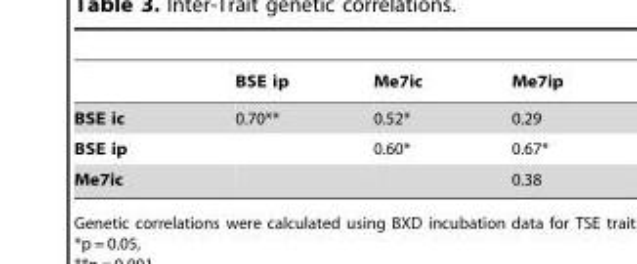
<table><thead><tr><td></td><td>BSE ip</td><td>Me7ic</td><td>Me7ip</td></tr></thead><tbody><tr><td>BSE ic</td><td>0.70**</td><td>0.52*</td><td>0.29</td></tr><tr><td>BSE ip</td><td></td><td>0.60*</td><td>0.67*</td></tr><tr><td>Me7ic</td><td></td><td></td><td>0.38</td></tr></tbody></table>